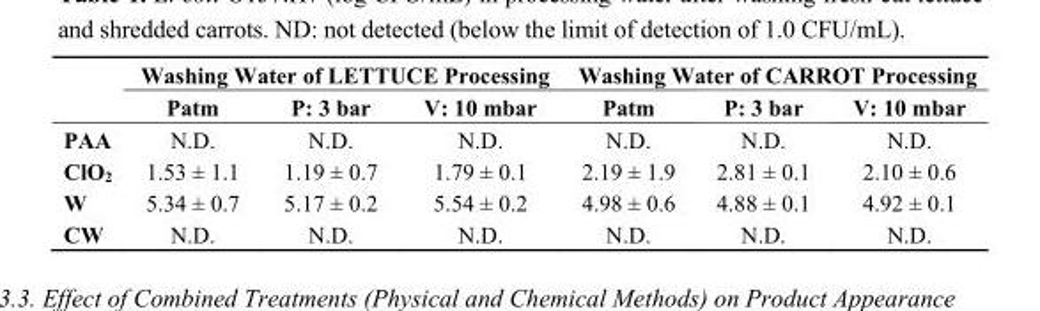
<table><thead><tr><td rowspan="2"></td><td colspan="3">Washing Water of LETTUCE Processing</td><td colspan="3">Washing Water of CARROT Processing</td></tr><tr><td>Patm</td><td>P: 3 bar</td><td>V: 10 mbar</td><td>Patm</td><td>P: 3 bar</td><td>V: 10 mbar</td></tr></thead><tbody><tr><td>PAA</td><td>N.D.</td><td>N.D.</td><td>N.D.</td><td>N.D.</td><td>N.D.</td><td>N.D.</td></tr><tr><td>ClO<sub>2</sub></td><td>1.53 ± 1.1</td><td>1.19 ± 0.7</td><td>1.79 ± 0.1</td><td>2.19 ± 1.9</td><td>2.81 ± 0.1</td><td>2.10 ± 0.6</td></tr><tr><td>W</td><td>5.34 ± 0.7</td><td>5.17 ± 0.2</td><td>5.54 ± 0.2</td><td>4.98 ± 0.6</td><td>4.88 ± 0.1</td><td>4.92 ± 0.1</td></tr><tr><td>CW</td><td>N.D.</td><td>N.D.</td><td>N.D.</td><td>N.D.</td><td>N.D.</td><td>N.D.</td></tr></tbody></table>